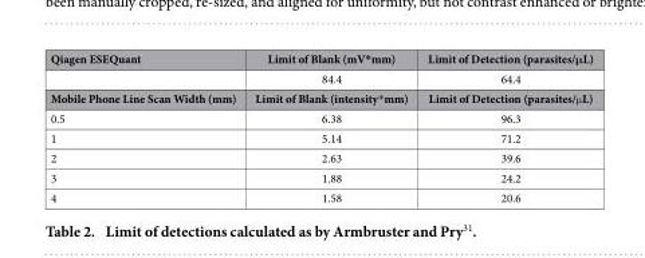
<table><thead><tr><td>Qiagen ESEQuant</td><td>Limit of Blank (mV*mm)</td><td>Limit of Detection (parasites/μL)</td></tr></thead><tbody><tr><td></td><td>84.4</td><td>64.4</td></tr><tr><td>Mobile Phone Line Scan Width (mm)</td><td>Limit of Blank (intensity* mm)</td><td>Limit of Detection (parasites/μ L)</td></tr><tr><td>0.5</td><td>6.38</td><td>96.3</td></tr><tr><td>1</td><td>5.14</td><td>71.2</td></tr><tr><td>2</td><td>2.63</td><td>39.6</td></tr><tr><td>3</td><td>1.88</td><td>24.2</td></tr><tr><td>4</td><td>1.58</td><td>20.6</td></tr></tbody></table>